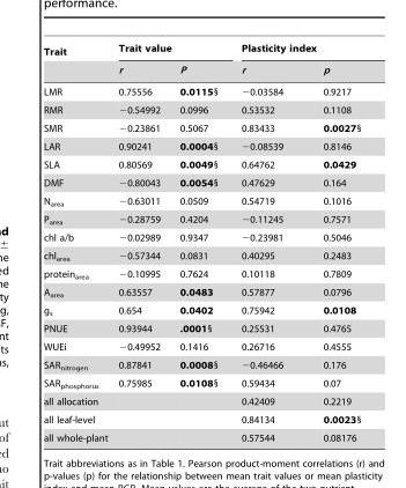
<table><thead><tr><td rowspan="2">Trait</td><td colspan="2">Trait value</td><td colspan="2">Plasticity index</td></tr><tr><td>r</td><td>P</td><td>r</td><td>p</td></tr></thead><tbody><tr><td>LMR</td><td>0.75556</td><td>0.0115§</td><td>−0.03584</td><td>0.9217</td></tr><tr><td>RMR</td><td>−0.54992</td><td>0.0996</td><td>0.53532</td><td>0.1108</td></tr><tr><td>SMR</td><td>−0.23861</td><td>0.5067</td><td>0.83433</td><td>0.0027§</td></tr><tr><td>LAR</td><td>0.90241</td><td>0.0004§</td><td>−0.08539</td><td>0.8146</td></tr><tr><td>SLA</td><td>0.80569</td><td>0.0049§</td><td>0.64762</td><td>0.0429</td></tr><tr><td>DMF</td><td>−0.80043</td><td>0.0054§</td><td>0.47629</td><td>0.164</td></tr><tr><td>N<sub>area</sub></td><td>−0.63011</td><td>0.0509</td><td>0.54719</td><td>0.1016</td></tr><tr><td>P<sub>area</sub></td><td>−0.28759</td><td>0.4204</td><td>−0.11245</td><td>0.7571</td></tr><tr><td>chl a/b</td><td>−0.02989</td><td>0.9347</td><td>−0.23981</td><td>0.5046</td></tr><tr><td>chl<sub>area</sub></td><td>−0.57344</td><td>0.0831</td><td>0.40295</td><td>0.2483</td></tr><tr><td>protein<sub>area</sub></td><td>−0.10995</td><td>0.7624</td><td>0.10118</td><td>0.7809</td></tr><tr><td>A<sub>area</sub></td><td>0.63557</td><td>0.0483</td><td>0.57877</td><td>0.0796</td></tr><tr><td>g<sub>s</sub></td><td>0.654</td><td>0.0402</td><td>0.75942</td><td>0.0108</td></tr><tr><td>PNUE</td><td>0.93944</td><td>.0001§</td><td>0.25531</td><td>0.4765</td></tr><tr><td>WUEi</td><td>−0.49952</td><td>0.1416</td><td>0.26716</td><td>0.4555</td></tr><tr><td>SAR<sub>nitrogen</sub></td><td>0.87841</td><td>0.0008§</td><td>−0.46466</td><td>0.176</td></tr><tr><td>SAR<sub>phosphorus</sub></td><td>0.75985</td><td>0.0108§</td><td>0.59434</td><td>0.07</td></tr><tr><td>all allocation</td><td></td><td></td><td>0.42409</td><td>0.2219</td></tr><tr><td>all leaf-level</td><td></td><td></td><td>0.84134</td><td>0.0023§</td></tr><tr><td>all whole-plant</td><td></td><td></td><td>0.57544</td><td>0.08176</td></tr></tbody></table>